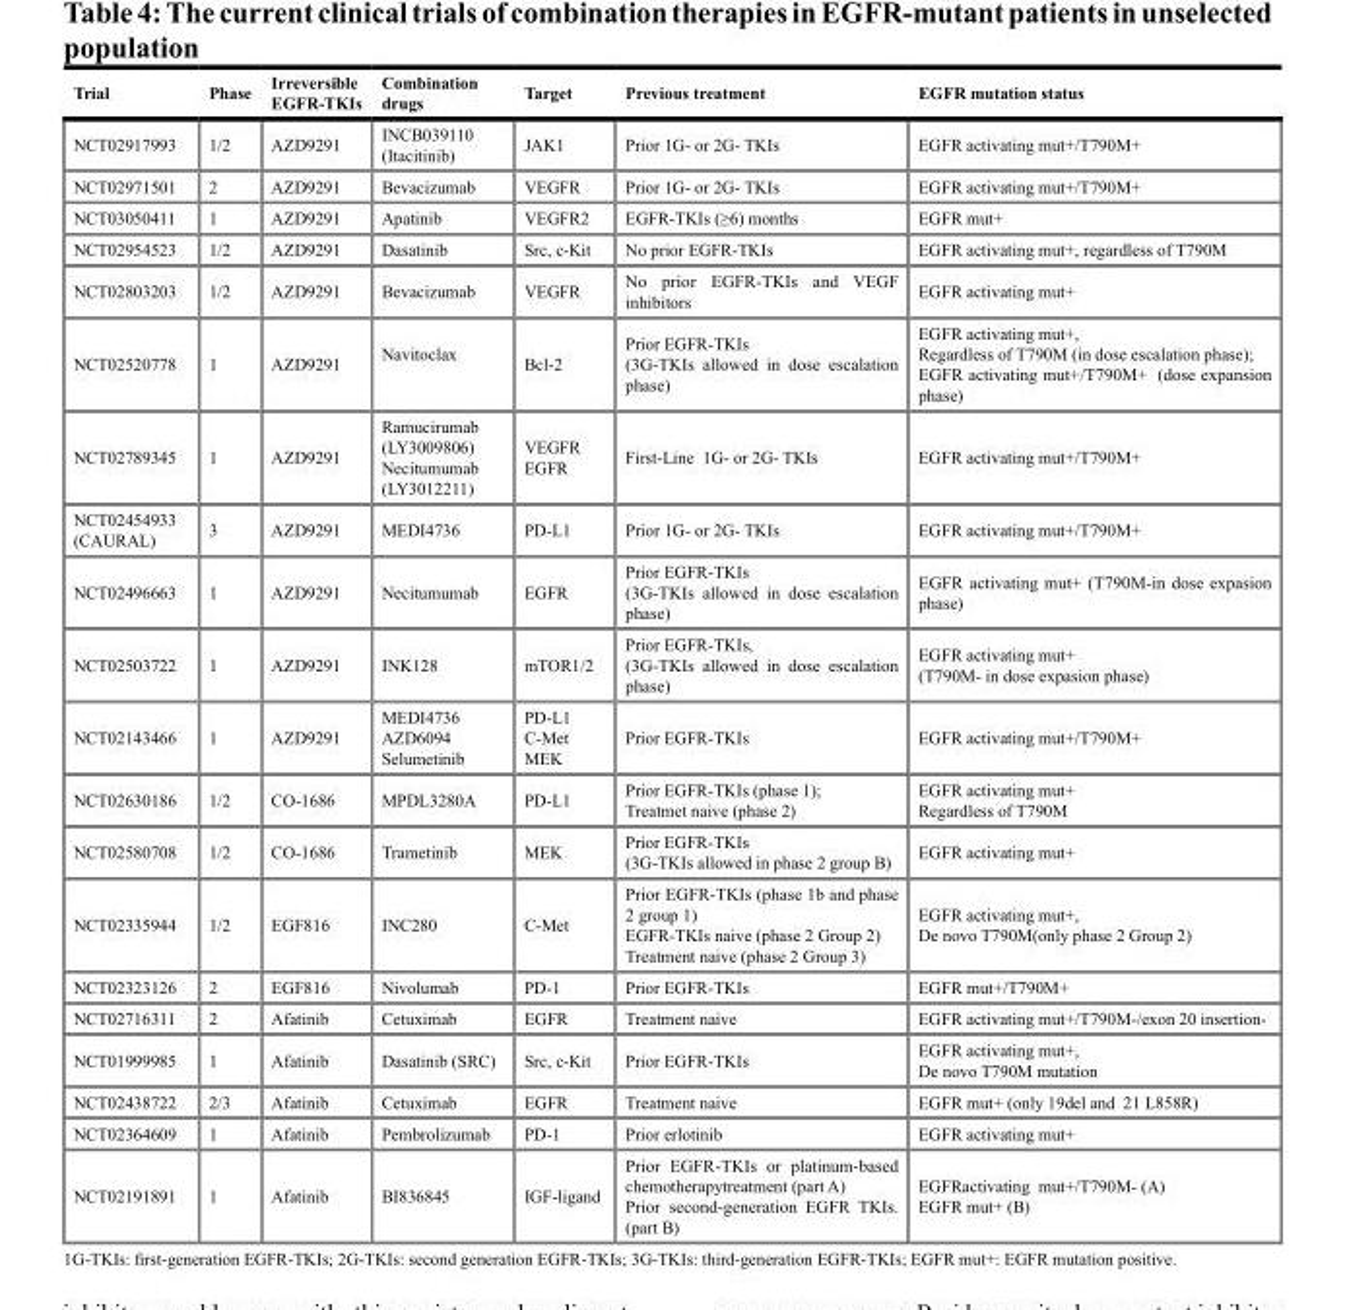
<table><thead><tr><td>Trial</td><td>Phase</td><td>Irreversible EGFR-TKIs</td><td>Combination drugs</td><td>Target</td><td>Previous treatment</td><td>EGFR mutation status</td></tr></thead><tbody><tr><td>NCT02917993</td><td>1/2</td><td>AZD9291</td><td>INCB039110 (Itacitinib)</td><td>JAK1</td><td>Prior 1G- or 2G- TKIs</td><td>EGFR activating mut+/T790M+</td></tr><tr><td>NCT02971501</td><td>2</td><td>AZD9291</td><td>Bevacizumab</td><td>VEGFR</td><td>Prior 1G- or 2G- TKIs</td><td>EGFR activating mut+/T790M+</td></tr><tr><td>NCT03050411</td><td>1</td><td>AZD9291</td><td>Apatinib</td><td>VEGFR2</td><td>EGFR-TKIs (≥6) months</td><td>EGFR mut+</td></tr><tr><td>NCT02954523</td><td>1/2</td><td>AZD9291</td><td>Dasatinib</td><td>Src, c-Kit</td><td>No prior EGFR-TKIs</td><td>EGFR activating mut+, regardless of T790M</td></tr><tr><td>NCT02803203</td><td>1/2</td><td>AZD9291</td><td>Bevacizumab</td><td>VEGFR</td><td>No prior EGFR-TKIs and VEGF inhibitors</td><td>EGFR activating mut+</td></tr><tr><td>NCT02520778</td><td>1</td><td>AZD9291</td><td>Navitoclax</td><td>Bcl-2</td><td>Prior EGFR-TKIs (3G-TKIs allowed in dose escalation phase)</td><td>EGFR activating mut+, Regardless of T790M (in dose escalation phase); EGFR activating mut+/T790M+ (dose expansion phase)</td></tr><tr><td>NCT02789345</td><td>1</td><td>AZD9291</td><td>Ramucirumab (LY3009806) Necitumumab (LY3012211)</td><td>VEGFR EGFR</td><td>First-Line 1G- or 2G- TKIs</td><td>EGFR activating mut+/T790M+</td></tr><tr><td>NCT02454933 (CAURAL)</td><td>3</td><td>AZD9291</td><td>MEDI4736</td><td>PD-L1</td><td>Prior 1G- or 2G- TKIs</td><td>EGFR activating mut+/T790M+</td></tr><tr><td>NCT02496663</td><td>1</td><td>AZD9291</td><td>Necitumumab</td><td>EGFR</td><td>Prior EGFR-TKIs (3G-TKIs allowed in dose escalation phase)</td><td>EGFR activating mut+ (T790M-in dose expasion phase)</td></tr><tr><td>NCT02503722</td><td>1</td><td>AZD9291</td><td>INK128</td><td>mTOR1/2</td><td>Prior EGFR-TKIs, (3G-TKIs allowed in dose escalation phase)</td><td>EGFR activating mut+ (T790M- in dose expasion phase)</td></tr><tr><td>NCT02143466</td><td>1</td><td>AZD9291</td><td>MEDI4736 AZD6094 Selumetinib</td><td>PD-L1 C-Met MEK</td><td>Prior EGFR-TKIs</td><td>EGFR activating mut+/T790M+</td></tr><tr><td>NCT02630186</td><td>1/2</td><td>CO-1686</td><td>MPDL3280A</td><td>PD-L1</td><td>Prior EGFR-TKIs (phase 1); Treatmet naive (phase 2)</td><td>EGFR activating mut+ Regardless of T790M</td></tr><tr><td>NCT02580708</td><td>1/2</td><td>CO-1686</td><td>Trametinib</td><td>MEK</td><td>Prior EGFR-TKIs (3G-TKIs allowed in phase 2 group B)</td><td>EGFR activating mut+</td></tr><tr><td>NCT02335944</td><td>1/2</td><td>EGF816</td><td>INC280</td><td>C-Met</td><td>Prior EGFR-TKIs (phase 1b and phase 2 group 1) EGFR-TKIs naive (phase 2 Group 2) Treatment naive (phase 2 Group 3)</td><td>EGFR activating mut+, De novo T790M(only phase 2 Group 2)</td></tr><tr><td>NCT02323126</td><td>2</td><td>EGF816</td><td>Nivolumab</td><td>PD-1</td><td>Prior EGFR-TKIs</td><td>EGFR mut+/T790M+</td></tr><tr><td>NCT02716311</td><td>2</td><td>Afatinib</td><td>Cetuximab</td><td>EGFR</td><td>Treatment naive</td><td>EGFR activating mut+/T790M-/exon 20 insertion-</td></tr><tr><td>NCT01999985</td><td>1</td><td>Afatinib</td><td>Dasatinib (SRC)</td><td>Src, c-Kit</td><td>Prior EGFR-TKIs</td><td>EGFR activating mut+, De novo T790M mutation</td></tr><tr><td>NCT02438722</td><td>2/3</td><td>Afatinib</td><td>Cetuximab</td><td>EGFR</td><td>Treatment naive</td><td>EGFR mut+ (only 19del and 21 L858R)</td></tr><tr><td>NCT02364609</td><td>1</td><td>Afatinib</td><td>Pembrolizumab</td><td>PD-1</td><td>Prior erlotinib</td><td>EGFR activating mut+</td></tr><tr><td>NCT02191891</td><td>1</td><td>Afatinib</td><td>BI836845</td><td>IGF-ligand</td><td>Prior EGFR-TKIs or platinum-based chemotherapytreatment (part A) Prior second-generation EGFR TKIs. (part B)</td><td>EGFRactivating mut+/T790M- (A) EGFR mut+ (B)</td></tr></tbody></table>